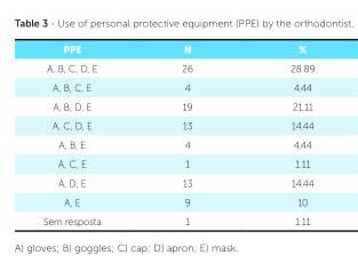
<table><tbody><tr><td>PPE</td><td>N</td><td>%</td></tr><tr><td>A, B, C, D, E</td><td>26</td><td>28.89</td></tr><tr><td>A, B, C, E</td><td>4</td><td>4.44</td></tr><tr><td>A, B, D, E</td><td>19</td><td>21.11</td></tr><tr><td>A, C, D, E</td><td>13</td><td>14.44</td></tr><tr><td>A, B, E</td><td>4</td><td>4.44</td></tr><tr><td>A, C, E</td><td>1</td><td>1.11</td></tr><tr><td>A, D, E</td><td>13</td><td>14.44</td></tr><tr><td>A, E</td><td>9</td><td>10</td></tr><tr><td>Sem resposta</td><td>1</td><td>1.11</td></tr></tbody></table>